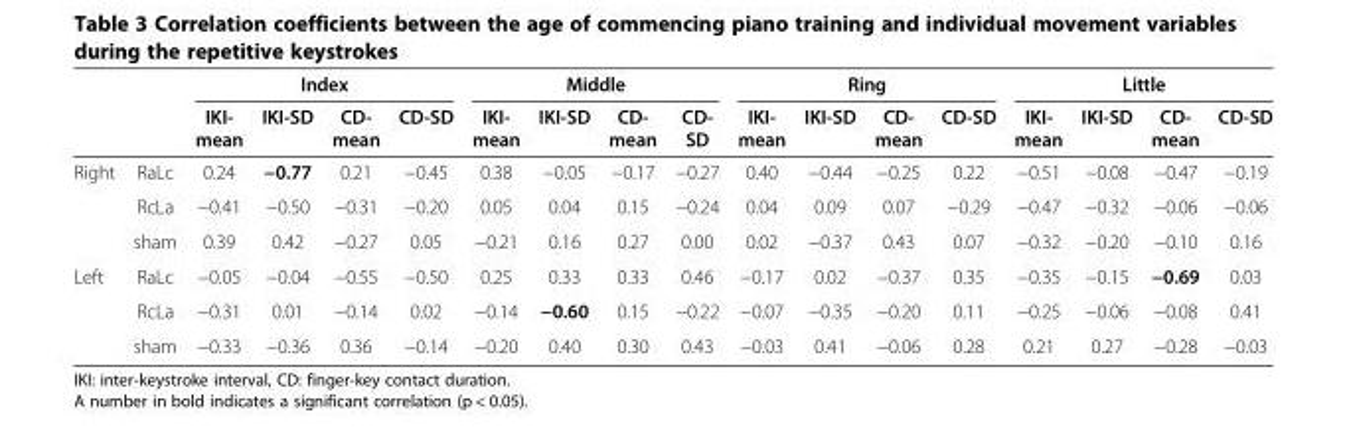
<table><thead><tr><td rowspan="2"></td><td rowspan="2"></td><td colspan="4">Index</td><td colspan="4">Middle</td><td colspan="4">Ring</td><td colspan="4">Little</td></tr><tr><td>IKI- mean</td><td>IKI-SD</td><td>CD- mean</td><td>CD-SD</td><td>IKI- mean</td><td>IKI-SD</td><td>CD- mean</td><td>CD- SD</td><td>IKI- mean</td><td>IKI-SD</td><td>CD- mean</td><td>CD-SD</td><td>IKI- mean</td><td>IKI-SD</td><td>CD- mean</td><td>CD-SD</td></tr></thead><tbody><tr><td rowspan="3">Right</td><td>RaLc</td><td>0.24</td><td>−0.77</td><td>0.21</td><td>−0.45</td><td>0.38</td><td>−0.05</td><td>−0.17</td><td>−0.27</td><td>0.40</td><td>−0.44</td><td>−0.25</td><td>0.22</td><td>−0.51</td><td>−0.08</td><td>−0.47</td><td>−0.19</td></tr><tr><td>RcLa</td><td>−0.41</td><td>−0.50</td><td>−0.31</td><td>−0.20</td><td>0.05</td><td>0.04</td><td>0.15</td><td>−0.24</td><td>0.04</td><td>0.09</td><td>0.07</td><td>−0.29</td><td>−0.47</td><td>−0.32</td><td>−0.06</td><td>−0.06</td></tr><tr><td>sham</td><td>0.39</td><td>0.42</td><td>−0.27</td><td>0.05</td><td>−0.21</td><td>0.16</td><td>0.27</td><td>0.00</td><td>0.02</td><td>−0.37</td><td>0.43</td><td>0.07</td><td>−0.32</td><td>−0.20</td><td>−0.10</td><td>0.16</td></tr><tr><td rowspan="3">Left</td><td>RaLc</td><td>−0.05</td><td>−0.04</td><td>−0.55</td><td>−0.50</td><td>0.25</td><td>0.33</td><td>0.33</td><td>0.46</td><td>−0.17</td><td>0.02</td><td>−0.37</td><td>0.35</td><td>−0.35</td><td>−0.15</td><td>−0.69</td><td>0.03</td></tr><tr><td>RcLa</td><td>−0.31</td><td>0.01</td><td>−0.14</td><td>0.02</td><td>−0.14</td><td>−0.60</td><td>0.15</td><td>−0.22</td><td>−0.07</td><td>−0.35</td><td>−0.20</td><td>0.11</td><td>−0.25</td><td>−0.06</td><td>−0.08</td><td>0.41</td></tr><tr><td>sham</td><td>−0.33</td><td>−0.36</td><td>0.36</td><td>−0.14</td><td>−0.20</td><td>0.40</td><td>0.30</td><td>0.43</td><td>−0.03</td><td>0.41</td><td>−0.06</td><td>0.28</td><td>0.21</td><td>0.27</td><td>−0.28</td><td>−0.03</td></tr></tbody></table>